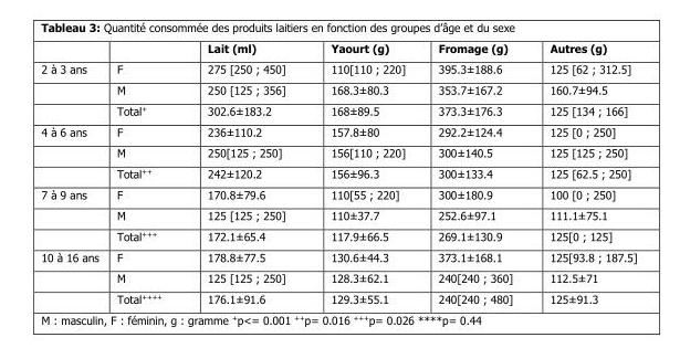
<table><thead><tr><td></td><td></td><td>Lait (ml)</td><td>Yaourt (g)</td><td>Fromage (g)</td><td>Autres (g)</td></tr></thead><tbody><tr><td rowspan="3">2 à 3 ans</td><td>F</td><td>275 [250 ; 450]</td><td>110[110 ; 220]</td><td>395.3±188.6</td><td>125 [62 ; 312.5]</td></tr><tr><td>M</td><td>250 [125 ; 356]</td><td>168.3±80.3</td><td>353.7±167.2</td><td>160.7±94.5</td></tr><tr><td>Total<sup>+</sup></td><td>302.6±183.2</td><td>168±89.5</td><td>373.3±176.3</td><td>125 [134 ; 166]</td></tr><tr><td rowspan="3">4 à 6 ans</td><td>F</td><td>236±110.2</td><td>157.8±80</td><td>292.2±124.4</td><td>125 [0 ; 250]</td></tr><tr><td>M</td><td>250[125 ; 250]</td><td>156[110 ; 220]</td><td>300±140.5</td><td>125 [125 ; 250]</td></tr><tr><td>Total<sup>++</sup></td><td>242±120.2</td><td>156±96.3</td><td>300±133.4</td><td>125 [62.5 ; 250]</td></tr><tr><td rowspan="3">7 à 9 ans</td><td>F</td><td>170.8±79.6</td><td>110[55 ; 220]</td><td>300±180.9</td><td>100 [0 ; 250]</td></tr><tr><td>M</td><td>125 [125 ; 250]</td><td>110±37.7</td><td>252.6±97.1</td><td>111.1±75.1</td></tr><tr><td>Total<sup>+++</sup></td><td>172.1±65.4</td><td>117.9±66.5</td><td>269.1±130.9</td><td>125[0 ; 125]</td></tr><tr><td rowspan="3">10 à 16 ans</td><td>F</td><td>178.8±77.5</td><td>130.6±44.3</td><td>373.1±168.1</td><td>125[93.8 ; 187.5]</td></tr><tr><td>M</td><td>125 [125 ; 250]</td><td>128.3±62.1</td><td>240[240 ; 360]</td><td>112.5±71</td></tr><tr><td>Total<sup>++++</sup></td><td>176.1±91.6</td><td>129.3±55.1</td><td>240[240 ; 480]</td><td>125±91.3</td></tr></tbody></table>